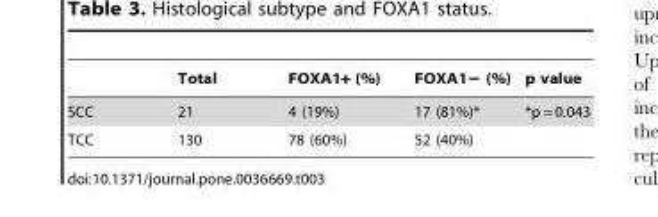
<table><thead><tr><td></td><td>Total</td><td>FOXA1+ (%)</td><td>FOXA1− (%)</td><td>p value</td></tr></thead><tbody><tr><td>SCC</td><td>21</td><td>4 (19%)</td><td>17 (81%)*</td><td>*p = 0.043</td></tr><tr><td>TCC</td><td>130</td><td>78 (60%)</td><td>52 (40%)</td><td></td></tr></tbody></table>